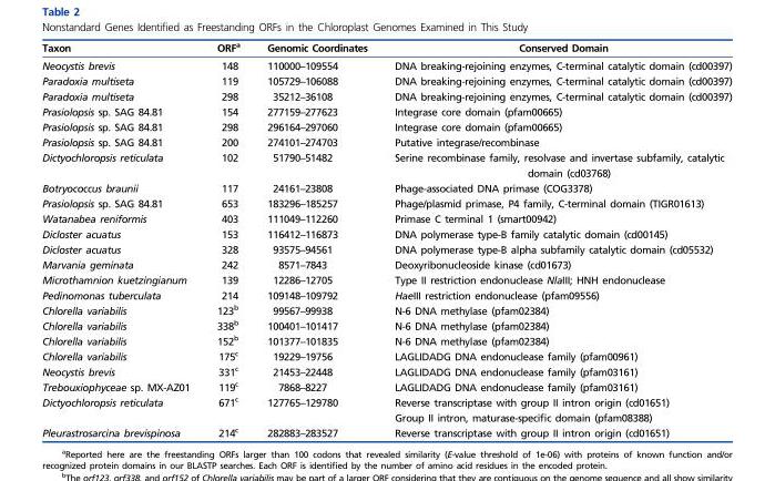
<table><thead><tr><td>Taxon</td><td>ORF<sup>a</sup></td><td>Genomic Coordinates</td><td>Conserved Domain</td></tr></thead><tbody><tr><td>Neocystis brevis</td><td>148</td><td>110000–109554</td><td>DNA breaking-rejoining enzymes, C-terminal catalytic domain (cd00397)</td></tr><tr><td>Paradoxia multiseta</td><td>119</td><td>105729–106088</td><td>DNA breaking-rejoining enzymes, C-terminal catalytic domain (cd00397)</td></tr><tr><td>Paradoxia multiseta</td><td>298</td><td>35212–36108</td><td>DNA breaking-rejoining enzymes, C-terminal catalytic domain (cd00397)</td></tr><tr><td>Prasiolopsis sp. SAG 84.81</td><td>154</td><td>277159–277623</td><td>Integrase core domain (pfam00665)</td></tr><tr><td>Prasiolopsis sp. SAG 84.81</td><td>298</td><td>296164–297060</td><td>Integrase core domain (pfam00665)</td></tr><tr><td>Prasiolopsis sp. SAG 84.81</td><td>200</td><td>274101–274703</td><td>Putative integrase/recombinase</td></tr><tr><td>Dictyochloropsis reticulata</td><td>102</td><td>51790–51482</td><td>Serine recombinase family, resolvase and invertase subfamily, catalytic domain (cd03768)</td></tr><tr><td>Botryococcus braunii</td><td>117</td><td>24161–23808</td><td>Phage-associated DNA primase (COG3378)</td></tr><tr><td>Prasiolopsis sp. SAG 84.81</td><td>653</td><td>183296–185257</td><td>Phage/plasmid primase, P4 family, C-terminal domain (TIGR01613)</td></tr><tr><td>Watanabea reniformis</td><td>403</td><td>111049–112260</td><td>Primase C terminal 1 (smart00942)</td></tr><tr><td>Dicloster acuatus</td><td>153</td><td>116412–116873</td><td>DNA polymerase type-B family catalytic domain (cd00145)</td></tr><tr><td>Dicloster acuatus</td><td>328</td><td>93575–94561</td><td>DNA polymerase type-B alpha subfamily catalytic domain (cd05532)</td></tr><tr><td>Marvania geminata</td><td>242</td><td>8571–7843</td><td>Deoxyribonucleoside kinase (cd01673)</td></tr><tr><td>Microthamnion kuetzingianum</td><td>139</td><td>12286–12705</td><td>Type II restriction endonuclease NlaIII; HNH endonuclease</td></tr><tr><td>Pedinomonas tuberculata</td><td>214</td><td>109148–109792</td><td>HaeIII restriction endonuclease (pfam09556)</td></tr><tr><td>Chlorella variabilis</td><td>123<sup>b</sup></td><td>99567–99938</td><td>N-6 DNA methylase (pfam02384)</td></tr><tr><td>Chlorella variabilis</td><td>338<sup>b</sup></td><td>100401–101417</td><td>N-6 DNA methylase (pfam02384)</td></tr><tr><td>Chlorella variabilis</td><td>152<sup>b</sup></td><td>101377–101835</td><td>N-6 DNA methylase (pfam02384)</td></tr><tr><td>Chlorella variabilis</td><td>175<sup>c</sup></td><td>19229–19756</td><td>LAGLIDADG DNA endonuclease family (pfam00961)</td></tr><tr><td>Neocystis brevis</td><td>331<sup>c</sup></td><td>21453–22448</td><td>LAGLIDADG DNA endonuclease family (pfam03161)</td></tr><tr><td>Trebouxiophyceae sp. MX-AZ01</td><td>119<sup>c</sup></td><td>7868–8227</td><td>LAGLIDADG DNA endonuclease family (pfam03161)</td></tr><tr><td rowspan="2">Dictyochloropsis reticulata</td><td>671<sup>c</sup></td><td>127765–129780</td><td>Reverse transcriptase with group II intron origin (cd01651)</td></tr><tr><td></td><td></td><td>Group II intron, maturase-specific domain (pfam08388)</td></tr><tr><td>Pleurastrosarcina brevispinosa</td><td>214<sup>c</sup></td><td>282883–283527</td><td>Reverse transcriptase with group II intron origin (cd01651)</td></tr></tbody></table>